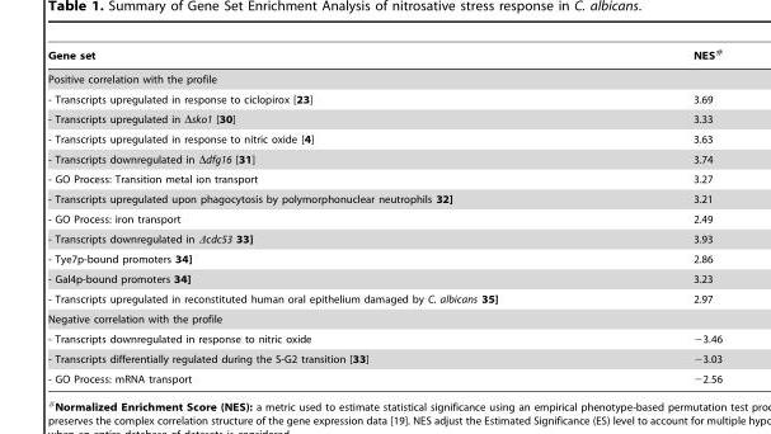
<table><thead><tr><td>Gene set</td><td>NES#</td></tr></thead><tbody><tr><td colspan="2">Positive correlation with the profile</td></tr><tr><td>- Transcripts upregulated in response to ciclopirox [23]</td><td>3.69</td></tr><tr><td>- Transcripts upregulated in Δsko1 [30]</td><td>3.33</td></tr><tr><td>- Transcripts upregulated in response to nitric oxide [4]</td><td>3.63</td></tr><tr><td>- Transcripts downregulated in Δdfg16 [31]</td><td>3.74</td></tr><tr><td>- GO Process: Transition metal ion transport</td><td>3.27</td></tr><tr><td>- Transcripts upregulated upon phagocytosis by polymorphonuclear neutrophils 32]</td><td>3.21</td></tr><tr><td>- GO Process: iron transport</td><td>2.49</td></tr><tr><td>- Transcripts downregulated in Δcdc53 33]</td><td>3.93</td></tr><tr><td>- Tye7p-bound promoters 34]</td><td>2.86</td></tr><tr><td>- Gal4p-bound promoters 34]</td><td>3.23</td></tr><tr><td>- Transcripts upregulated in reconstituted human oral epithelium damaged by C. albicans 35]</td><td>2.97</td></tr><tr><td colspan="2">Negative correlation with the profile</td></tr><tr><td>- Transcripts downregulated in response to nitric oxide</td><td>−3.46</td></tr><tr><td>- Transcripts differentially regulated during the S-G2 transition [33]</td><td>−3.03</td></tr><tr><td>- GO Process: mRNA transport</td><td>−2.56</td></tr></tbody></table>